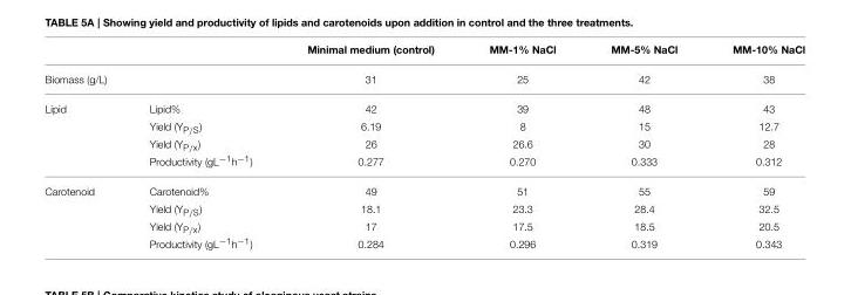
<table><thead><tr><td></td><td></td><td>Minimal medium (control)</td><td>MM-1% NaCl</td><td>MM-5% NaCl</td><td>MM-10% NaCl</td></tr></thead><tbody><tr><td colspan="2">Biomass (g/L)</td><td>31</td><td>25</td><td>42</td><td>38</td></tr><tr><td rowspan="4">Lipid</td><td>Lipid%</td><td>42</td><td>39</td><td>48</td><td>43</td></tr><tr><td>Yield (Y<sub>P/S</sub>)</td><td>6.19</td><td>8</td><td>15</td><td>12.7</td></tr><tr><td>Yield (Y<sub>P/x</sub>)</td><td>26</td><td>26.6</td><td>30</td><td>28</td></tr><tr><td>Productivity (gL<sup>−1</sup>h<sup>−1</sup>)</td><td>0.277</td><td>0.270</td><td>0.333</td><td>0.312</td></tr><tr><td rowspan="4">Carotenoid</td><td>Carotenoid%</td><td>49</td><td>51</td><td>55</td><td>59</td></tr><tr><td>Yield (Y<sub>P/S</sub>)</td><td>18.1</td><td>23.3</td><td>28.4</td><td>32.5</td></tr><tr><td>Yield (Y<sub>P/x</sub>)</td><td>17</td><td>17.5</td><td>18.5</td><td>20.5</td></tr><tr><td>Productivity (gL<sup>−1</sup>h<sup>−1</sup>)</td><td>0.284</td><td>0.296</td><td>0.319</td><td>0.343</td></tr></tbody></table>